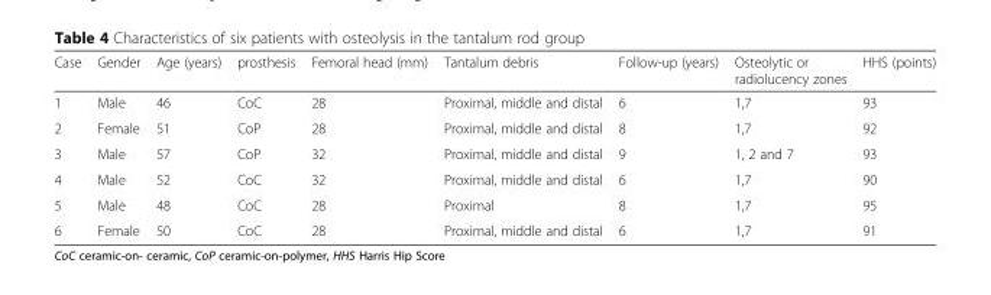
<table><thead><tr><td>Case</td><td>Gender</td><td>Age (years)</td><td>prosthesis</td><td>Femoral head (mm)</td><td>Tantalum debris</td><td>Follow-up (years)</td><td>Osteolytic or radiolucency zones</td><td>HHS (points)</td></tr></thead><tbody><tr><td>1</td><td>Male</td><td>46</td><td>CoC</td><td>28</td><td>Proximal, middle and distal</td><td>6</td><td>1,7</td><td>93</td></tr><tr><td>2</td><td>Female</td><td>51</td><td>CoP</td><td>28</td><td>Proximal, middle and distal</td><td>8</td><td>1,7</td><td>92</td></tr><tr><td>3</td><td>Male</td><td>57</td><td>CoP</td><td>32</td><td>Proximal, middle and distal</td><td>9</td><td>1, 2 and 7</td><td>93</td></tr><tr><td>4</td><td>Male</td><td>52</td><td>CoC</td><td>32</td><td>Proximal, middle and distal</td><td>6</td><td>1,7</td><td>90</td></tr><tr><td>5</td><td>Male</td><td>48</td><td>CoC</td><td>28</td><td>Proximal</td><td>8</td><td>1,7</td><td>95</td></tr><tr><td>6</td><td>Female</td><td>50</td><td>CoC</td><td>28</td><td>Proximal, middle and distal</td><td>6</td><td>1,7</td><td>91</td></tr></tbody></table>